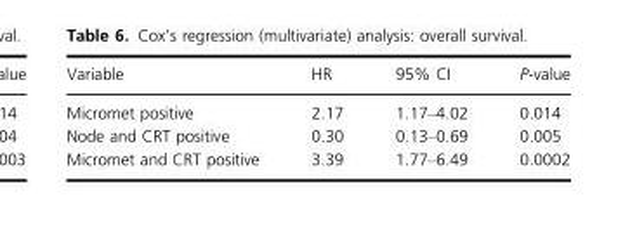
<table><thead><tr><td>Variable</td><td>HR</td><td>95% CI</td><td>P-value</td></tr></thead><tbody><tr><td>Micromet positive</td><td>2.17</td><td>1.17–4.02</td><td>0.014</td></tr><tr><td>Node and CRT positive</td><td>0.30</td><td>0.13–0.69</td><td>0.005</td></tr><tr><td>Micromet and CRT positive</td><td>3.39</td><td>1.77–6.49</td><td>0.0002</td></tr></tbody></table>